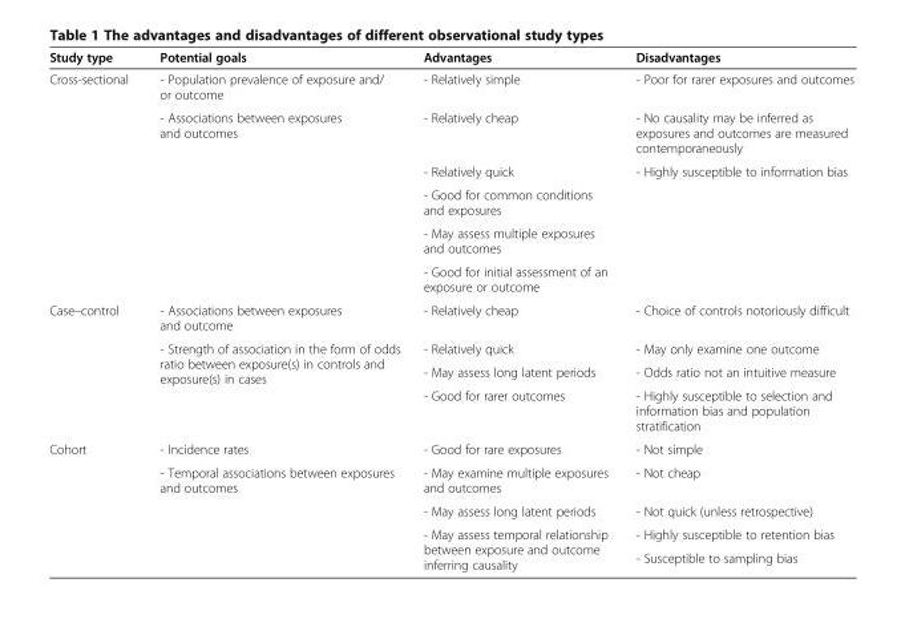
<table><thead><tr><td>Study type</td><td>Potential goals</td><td>Advantages</td><td>Disadvantages</td></tr></thead><tbody><tr><td rowspan="6">Cross-sectional</td><td>- Population prevalence of exposure and/ or outcome</td><td>- Relatively simple</td><td>- Poor for rarer exposures and outcomes</td></tr><tr><td rowspan="5">- Associations between exposures and outcomes</td><td>- Relatively cheap</td><td>- No causality may be inferred as exposures and outcomes are measured contemporaneously</td></tr><tr><td>- Relatively quick</td><td rowspan="4">- Highly susceptible to information bias</td></tr><tr><td>- Good for common conditions and exposures</td></tr><tr><td>- May assess multiple exposures and outcomes</td></tr><tr><td>- Good for initial assessment of an exposure or outcome</td></tr><tr><td rowspan="4">Case–control</td><td>- Associations between exposures and outcome</td><td>- Relatively cheap</td><td>- Choice of controls notoriously difficult</td></tr><tr><td rowspan="3">- Strength of association in the form of odds ratio between exposure(s) in controls and exposure(s) in cases</td><td>- Relatively quick</td><td>- May only examine one outcome</td></tr><tr><td>- May assess long latent periods</td><td>- Odds ratio not an intuitive measure</td></tr><tr><td>- Good for rarer outcomes</td><td>- Highly susceptible to selection and information bias and population stratification</td></tr><tr><td rowspan="5">Cohort</td><td>- Incidence rates</td><td>- Good for rare exposures</td><td>- Not simple</td></tr><tr><td rowspan="4">- Temporal associations between exposures and outcomes</td><td>- May examine multiple exposures and outcomes</td><td>- Not cheap</td></tr><tr><td>- May assess long latent periods</td><td>- Not quick (unless retrospective)</td></tr><tr><td rowspan="2">- May assess temporal relationship between exposure and outcome inferring causality</td><td>- Highly susceptible to retention bias</td></tr><tr><td>- Susceptible to sampling bias</td></tr></tbody></table>